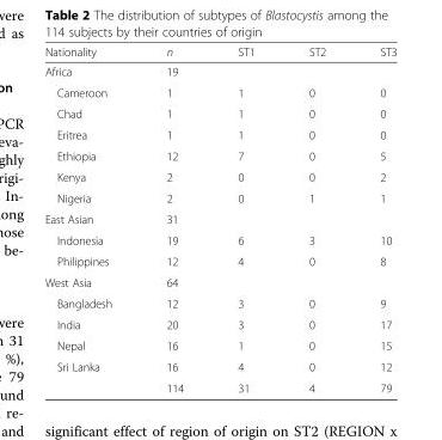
<table><thead><tr><td>Nationality</td><td>n</td><td>ST1</td><td>ST2</td><td>ST3</td></tr></thead><tbody><tr><td>Africa</td><td>19</td><td></td><td></td><td></td></tr><tr><td>Cameroon</td><td>1</td><td>1</td><td>0</td><td>0</td></tr><tr><td>Chad</td><td>1</td><td>1</td><td>0</td><td>0</td></tr><tr><td>Eritrea</td><td>1</td><td>1</td><td>0</td><td>0</td></tr><tr><td>Ethiopia</td><td>12</td><td>7</td><td>0</td><td>5</td></tr><tr><td>Kenya</td><td>2</td><td>0</td><td>0</td><td>2</td></tr><tr><td>Nigeria</td><td>2</td><td>0</td><td>1</td><td>1</td></tr><tr><td>East Asian</td><td>31</td><td></td><td></td><td></td></tr><tr><td>Indonesia</td><td>19</td><td>6</td><td>3</td><td>10</td></tr><tr><td>Philippines</td><td>12</td><td>4</td><td>0</td><td>8</td></tr><tr><td>West Asia</td><td>64</td><td></td><td></td><td></td></tr><tr><td>Bangladesh</td><td>12</td><td>3</td><td>0</td><td>9</td></tr><tr><td>India</td><td>20</td><td>3</td><td>0</td><td>17</td></tr><tr><td>Nepal</td><td>16</td><td>1</td><td>0</td><td>15</td></tr><tr><td rowspan="2">Sri Lanka</td><td>16</td><td>4</td><td>0</td><td>12</td></tr><tr><td>114</td><td>31</td><td>4</td><td>79</td></tr></tbody></table>